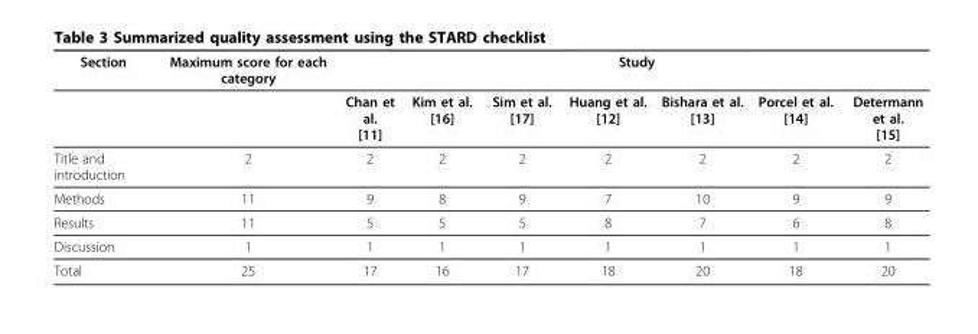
<table><thead><tr><td rowspan="2">Section</td><td rowspan="2">Maximum score for each category</td><td colspan="7">Study</td></tr><tr><td>Chan et al. [11]</td><td>Kim et al. [16]</td><td>Sim et al. [17]</td><td>Huang et al. [12]</td><td>Bishara et al. [13]</td><td>Porcel et al. [14]</td><td>Determann et al. [15]</td></tr></thead><tbody><tr><td>Title and introduction</td><td>2</td><td>2</td><td>2</td><td>2</td><td>2</td><td>2</td><td>2</td><td>2</td></tr><tr><td>Methods</td><td>11</td><td>9</td><td>8</td><td>9</td><td>7</td><td>10</td><td>9</td><td>9</td></tr><tr><td>Results</td><td>11</td><td>5</td><td>5</td><td>5</td><td>8</td><td>7</td><td>6</td><td>8</td></tr><tr><td>Discussion</td><td>1</td><td>1</td><td>1</td><td>1</td><td>1</td><td>1</td><td>1</td><td>1</td></tr><tr><td>Total</td><td>25</td><td>17</td><td>16</td><td>17</td><td>18</td><td>20</td><td>18</td><td>20</td></tr></tbody></table>